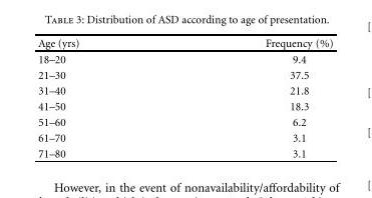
<table><thead><tr><td>Age (yrs)</td><td>Frequency (%)</td></tr></thead><tbody><tr><td>18–20</td><td>9.4</td></tr><tr><td>21–30</td><td>37.5</td></tr><tr><td>31–40</td><td>21.8</td></tr><tr><td>41–50</td><td>18.3</td></tr><tr><td>51–60</td><td>6.2</td></tr><tr><td>61–70</td><td>3.1</td></tr><tr><td>71–80</td><td>3.1</td></tr></tbody></table>